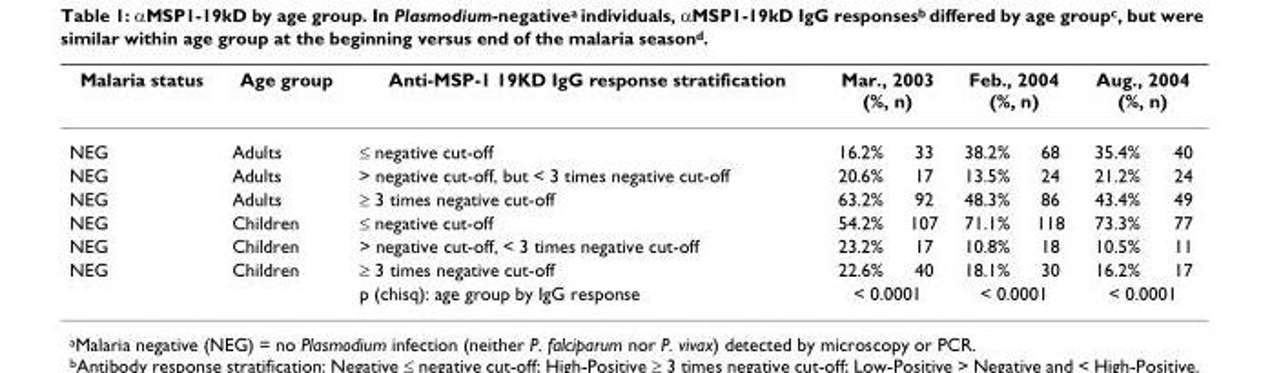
<table><thead><tr><td rowspan="2">Malaria status NEG</td><td rowspan="2">Age group Adults</td><td rowspan="2">Anti-MSP-1 19KD IgG response stratification ≤ negative cut-off</td><td colspan="2">Mar., 2003 (%, n)</td><td colspan="2">Feb., 2004 (%, n)</td><td colspan="2">Aug., 2004 (%, n)</td></tr><tr><td>16.2%</td><td>33</td><td>38.2%</td><td>68</td><td>35.4%</td><td>40</td></tr></thead><tbody><tr><td>NEG</td><td>Adults</td><td>&gt; negative cut-off, but &lt; 3 times negative cut-off</td><td>20.6%</td><td>17</td><td>13.5%</td><td>24</td><td>21.2%</td><td>24</td></tr><tr><td>NEG</td><td>Adults</td><td>≥ 3 times negative cut-off</td><td>63.2%</td><td>92</td><td>48.3%</td><td>86</td><td>43.4%</td><td>49</td></tr><tr><td>NEG</td><td>Children</td><td>≤ negative cut-off</td><td>54.2%</td><td>107</td><td>71.1%</td><td>118</td><td>73.3%</td><td>77</td></tr><tr><td>NEG</td><td>Children</td><td>&gt; negative cut-off, &lt; 3 times negative cut-off</td><td>23.2%</td><td>17</td><td>10.8%</td><td>18</td><td>10.5%</td><td>11</td></tr><tr><td rowspan="2">NEG</td><td>Children</td><td>≥ 3 times negative cut-off</td><td>22.6%</td><td>40</td><td>18.1%</td><td>30</td><td>16.2%</td><td>17</td></tr><tr><td></td><td>p (chisq): age group by IgG response</td><td colspan="2">&lt; 0.0001</td><td colspan="2">&lt; 0.0001</td><td colspan="2">&lt; 0.0001</td></tr></tbody></table>